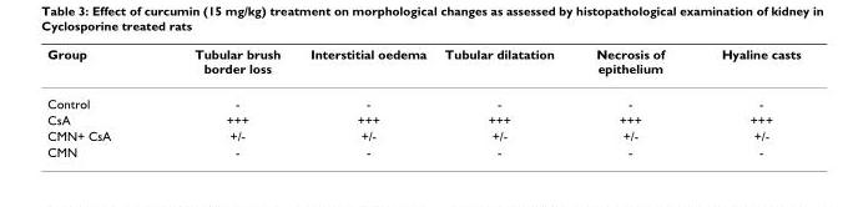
<table><thead><tr><td>Group</td><td>Tubular brush border loss</td><td>Interstitial oedema</td><td>Tubular dilatation</td><td>Necrosis of epithelium</td><td>Hyaline casts</td></tr></thead><tbody><tr><td>Control</td><td>-</td><td>-</td><td>-</td><td>-</td><td>-</td></tr><tr><td>CsA</td><td>+++</td><td>+++</td><td>+++</td><td>+++</td><td>+++</td></tr><tr><td>CMN+ CsA</td><td>+/-</td><td>+/-</td><td>+/-</td><td>+/-</td><td>+/-</td></tr><tr><td>CMN</td><td>-</td><td>-</td><td>-</td><td>-</td><td>-</td></tr></tbody></table>